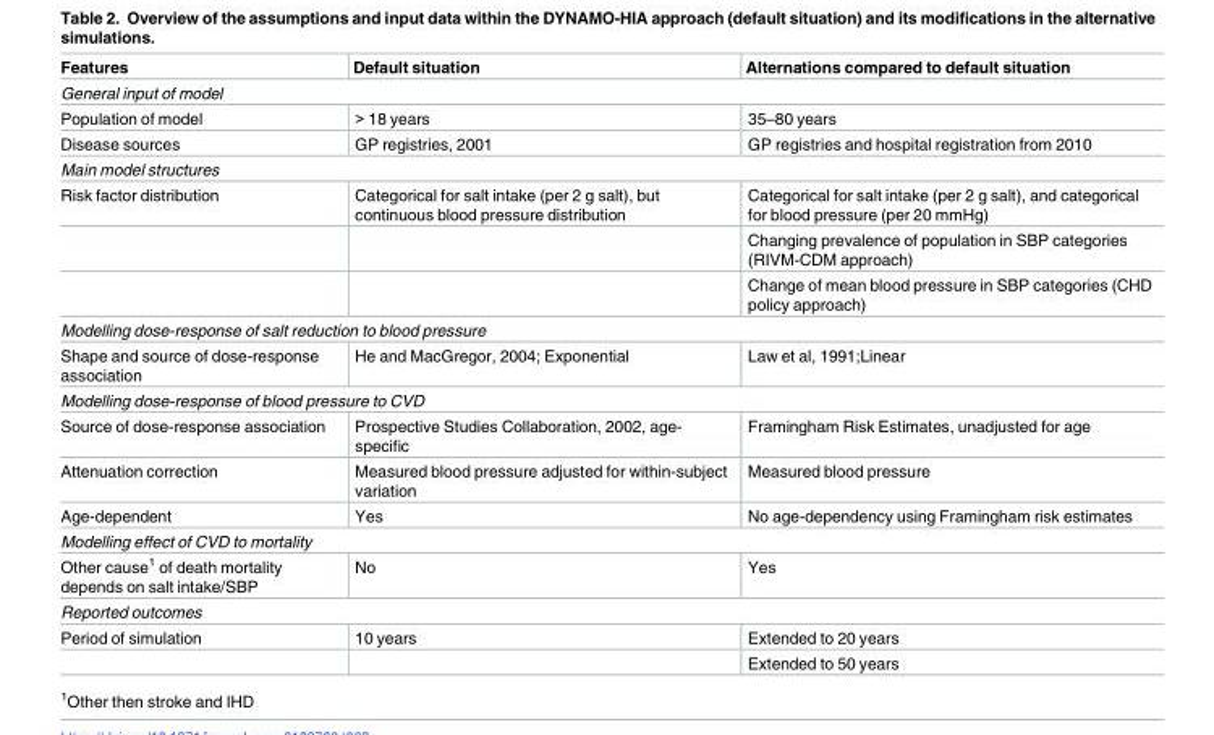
<table><thead><tr><td>Features</td><td>Default situation</td><td>Alternations compared to default situation</td></tr></thead><tbody><tr><td colspan="3">General input of model</td></tr><tr><td>Population of model</td><td>&gt; 18 years</td><td>35–80 years</td></tr><tr><td>Disease sources</td><td>GP registries, 2001</td><td>GP registries and hospital registration from 2010</td></tr><tr><td colspan="3">Main model structures</td></tr><tr><td rowspan="3">Risk factor distribution</td><td>Categorical for salt intake (per 2 g salt), but continuous blood pressure distribution</td><td>Categorical for salt intake (per 2 g salt), and categorical for blood pressure (per 20 mmHg)</td></tr><tr><td></td><td>Changing prevalence of population in SBP categories (RIVM-CDM approach)</td></tr><tr><td></td><td>Change of mean blood pressure in SBP categories (CHD policy approach)</td></tr><tr><td colspan="3">Modelling dose-response of salt reduction to blood pressure</td></tr><tr><td>Shape and source of dose-response association</td><td>He and MacGregor, 2004; Exponential</td><td>Law et al, 1991;Linear</td></tr><tr><td colspan="3">Modelling dose-response of blood pressure to CVD</td></tr><tr><td>Source of dose-response association</td><td>Prospective Studies Collaboration, 2002, age- specific</td><td>Framingham Risk Estimates, unadjusted for age</td></tr><tr><td>Attenuation correction</td><td>Measured blood pressure adjusted for within-subject variation</td><td>Measured blood pressure</td></tr><tr><td>Age-dependent</td><td>Yes</td><td>No age-dependency using Framingham risk estimates</td></tr><tr><td colspan="3">Modelling effect of CVD to mortality</td></tr><tr><td>Other cause<sup>1</sup> of death mortality depends on salt intake/SBP</td><td>No</td><td>Yes</td></tr><tr><td colspan="3">Reported outcomes</td></tr><tr><td rowspan="2">Period of simulation</td><td>10 years</td><td>Extended to 20 years</td></tr><tr><td></td><td>Extended to 50 years</td></tr></tbody></table>